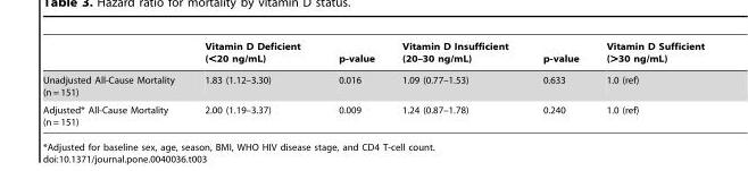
<table><thead><tr><td></td><td>Vitamin D Deficient (&lt;20 ng/mL)</td><td>p-value</td><td>Vitamin D Insufficient (20–30 ng/mL)</td><td>p-value</td><td>Vitamin D Sufficient (&gt;30 ng/mL)</td></tr></thead><tbody><tr><td>Unadjusted All-Cause Mortality (n = 151)</td><td>1.83 (1.12–3.30)</td><td>0.016</td><td>1.09 (0.77–1.53)</td><td>0.633</td><td>1.0 (ref)</td></tr><tr><td>Adjusted* All-Cause Mortality (n = 151)</td><td>2.00 (1.19–3.37)</td><td>0.009</td><td>1.24 (0.87–1.78)</td><td>0.240</td><td>1.0 (ref)</td></tr></tbody></table>